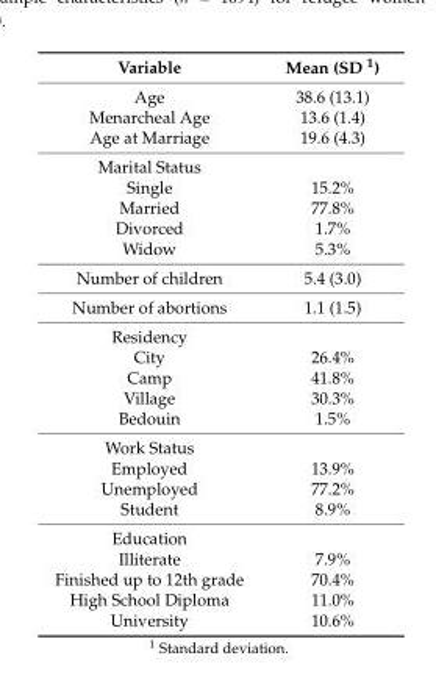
<table><thead><tr><td>Variable</td><td>Mean (SD <sup>1</sup>)</td></tr></thead><tbody><tr><td>Age</td><td>38.6 (13.1)</td></tr><tr><td>Menarcheal Age</td><td>13.6 (1.4)</td></tr><tr><td>Age at Marriage</td><td>19.6 (4.3)</td></tr><tr><td colspan="2">Marital Status</td></tr><tr><td>Single</td><td>15.2%</td></tr><tr><td>Married</td><td>77.8%</td></tr><tr><td>Divorced</td><td>1.7%</td></tr><tr><td>Widow</td><td>5.3%</td></tr><tr><td>Number of children</td><td>5.4 (3.0)</td></tr><tr><td>Number of abortions</td><td>1.1 (1.5)</td></tr><tr><td colspan="2">Residency</td></tr><tr><td>City</td><td>26.4%</td></tr><tr><td>Camp</td><td>41.8%</td></tr><tr><td>Village</td><td>30.3%</td></tr><tr><td>Bedouin</td><td>1.5%</td></tr><tr><td colspan="2">Work Status</td></tr><tr><td>Employed</td><td>13.9%</td></tr><tr><td>Unemployed</td><td>77.2%</td></tr><tr><td>Student</td><td>8.9%</td></tr><tr><td colspan="2">Education</td></tr><tr><td>Illiterate</td><td>7.9%</td></tr><tr><td>Finished up to 12th grade</td><td>70.4%</td></tr><tr><td>High School Diploma</td><td>11.0%</td></tr><tr><td>University</td><td>10.6%</td></tr></tbody></table>